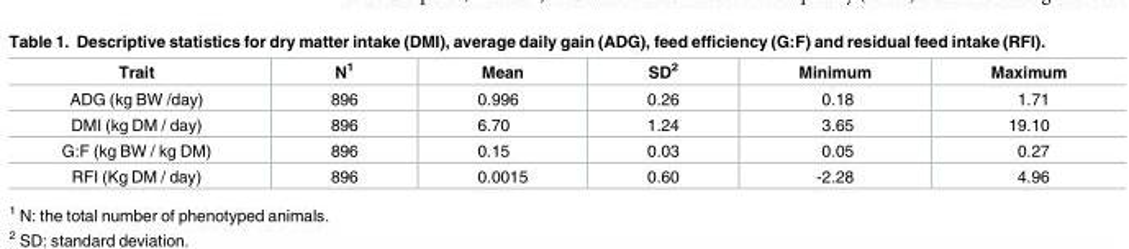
<table><thead><tr><td>Trait</td><td>N<sup>1</sup></td><td>Mean</td><td>SD<sup>2</sup></td><td>Minimum</td><td>Maximum</td></tr></thead><tbody><tr><td>ADG (kg BW /day)</td><td>896</td><td>0.996</td><td>0.26</td><td>0.18</td><td>1.71</td></tr><tr><td>DMI (kg DM / day)</td><td>896</td><td>6.70</td><td>1.24</td><td>3.65</td><td>19.10</td></tr><tr><td>G:F (kg BW / kg DM)</td><td>896</td><td>0.15</td><td>0.03</td><td>0.05</td><td>0.27</td></tr><tr><td>RFI (Kg DM / day)</td><td>896</td><td>0.0015</td><td>0.60</td><td>-2.28</td><td>4.96</td></tr></tbody></table>